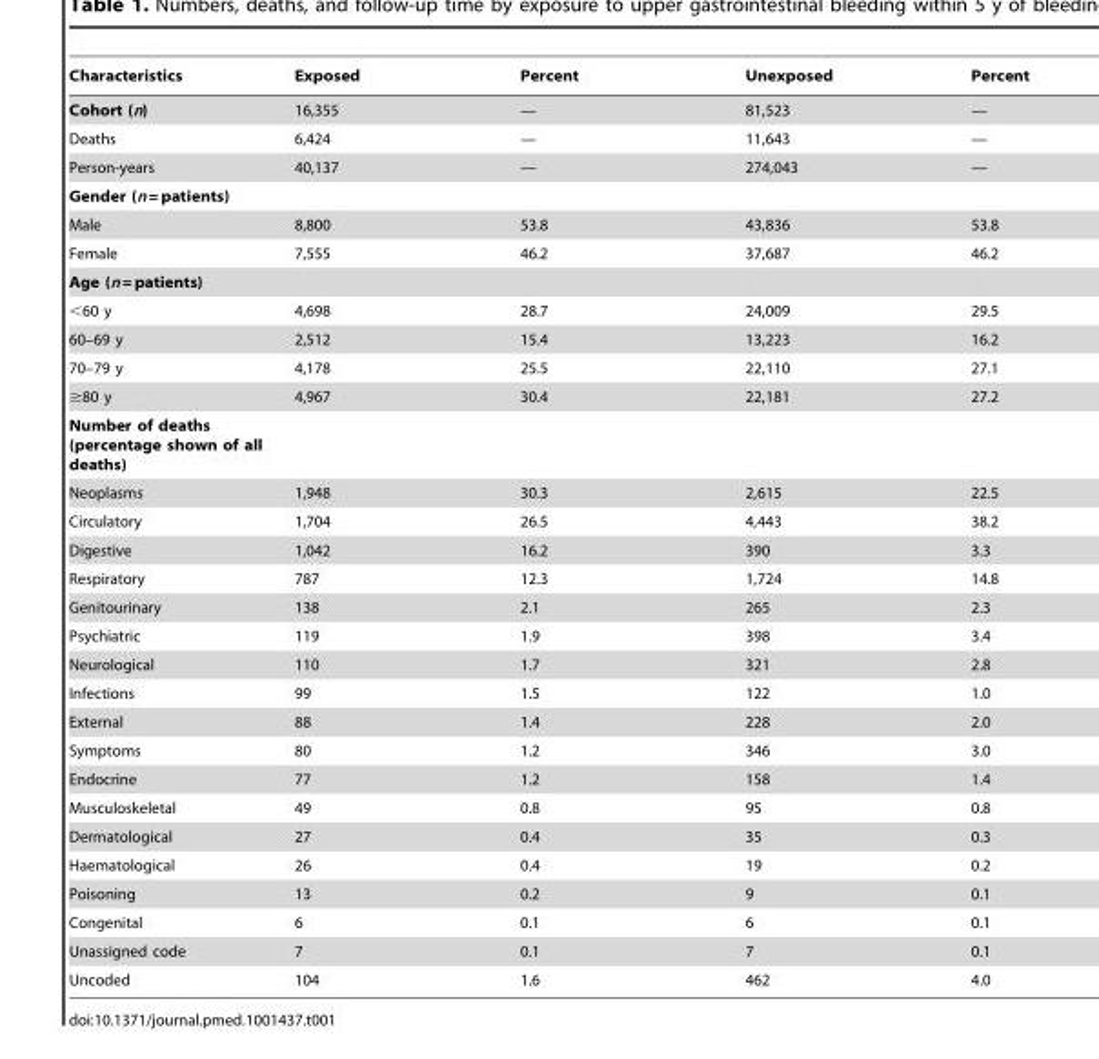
<table><thead><tr><td>Characteristics</td><td>Exposed</td><td>Percent</td><td>Unexposed</td><td>Percent</td></tr></thead><tbody><tr><td>Cohort (n)</td><td>16,355</td><td>—</td><td>81,523</td><td>—</td></tr><tr><td>Deaths</td><td>6,424</td><td>—</td><td>11,643</td><td>—</td></tr><tr><td>Person-years</td><td>40,137</td><td>—</td><td>274,043</td><td>—</td></tr><tr><td colspan="5">Gender (n = patients)</td></tr><tr><td>Male</td><td>8,800</td><td>53.8</td><td>43,836</td><td>53.8</td></tr><tr><td>Female</td><td>7,555</td><td>46.2</td><td>37,687</td><td>46.2</td></tr><tr><td colspan="5">Age (n = patients)</td></tr><tr><td>&lt;60 y</td><td>4,698</td><td>28.7</td><td>24,009</td><td>29.5</td></tr><tr><td>60–69 y</td><td>2,512</td><td>15.4</td><td>13,223</td><td>16.2</td></tr><tr><td>70–79 y</td><td>4,178</td><td>25.5</td><td>22,110</td><td>27.1</td></tr><tr><td>≥80 y</td><td>4,967</td><td>30.4</td><td>22,181</td><td>27.2</td></tr><tr><td colspan="5">Number of deaths (percentage shown of all deaths)</td></tr><tr><td>Neoplasms</td><td>1,948</td><td>30.3</td><td>2,615</td><td>22.5</td></tr><tr><td>Circulatory</td><td>1,704</td><td>26.5</td><td>4,443</td><td>38.2</td></tr><tr><td>Digestive</td><td>1,042</td><td>16.2</td><td>390</td><td>3.3</td></tr><tr><td>Respiratory</td><td>787</td><td>12.3</td><td>1,724</td><td>14.8</td></tr><tr><td>Genitourinary</td><td>138</td><td>2.1</td><td>265</td><td>2.3</td></tr><tr><td>Psychiatric</td><td>119</td><td>1.9</td><td>398</td><td>3.4</td></tr><tr><td>Neurological</td><td>110</td><td>1.7</td><td>321</td><td>2.8</td></tr><tr><td>Infections</td><td>99</td><td>1.5</td><td>122</td><td>1.0</td></tr><tr><td>External</td><td>88</td><td>1.4</td><td>228</td><td>2.0</td></tr><tr><td>Symptoms</td><td>80</td><td>1.2</td><td>346</td><td>3.0</td></tr><tr><td>Endocrine</td><td>77</td><td>1.2</td><td>158</td><td>1.4</td></tr><tr><td>Musculoskeletal</td><td>49</td><td>0.8</td><td>95</td><td>0.8</td></tr><tr><td>Dermatological</td><td>27</td><td>0.4</td><td>35</td><td>0.3</td></tr><tr><td>Haematological</td><td>26</td><td>0.4</td><td>19</td><td>0.2</td></tr><tr><td>Poisoning</td><td>13</td><td>0.2</td><td>9</td><td>0.1</td></tr><tr><td>Congenital</td><td>6</td><td>0.1</td><td>6</td><td>0.1</td></tr><tr><td>Unassigned code</td><td>7</td><td>0.1</td><td>7</td><td>0.1</td></tr><tr><td>Uncoded</td><td>104</td><td>1.6</td><td>462</td><td>4.0</td></tr></tbody></table>